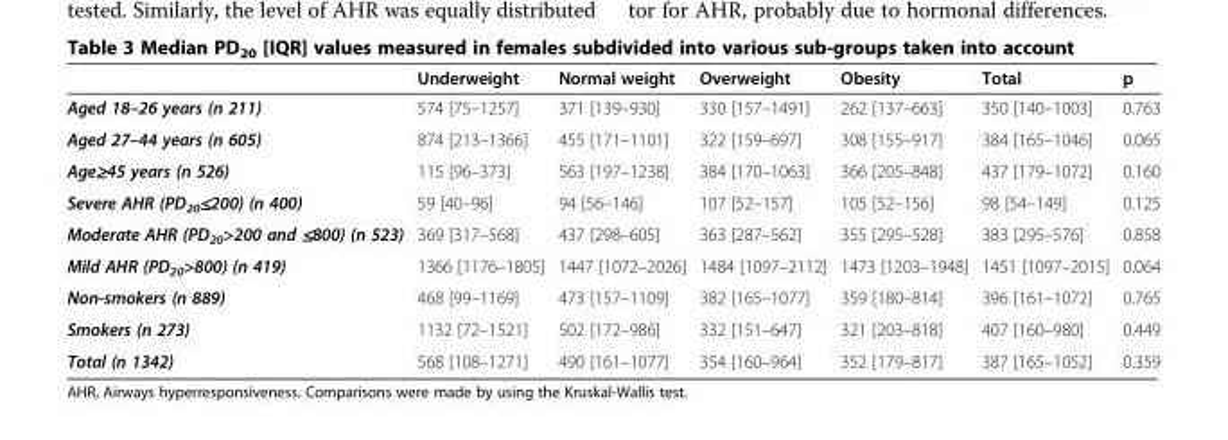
<table><thead><tr><td></td><td>Underweight</td><td>Normal weight</td><td>Overweight</td><td>Obesity</td><td>Total</td><td>p</td></tr></thead><tbody><tr><td>Aged 18–26 years (n 211)</td><td>574 [75–1257]</td><td>371 [139–930]</td><td>330 [157–1491]</td><td>262 [137–663]</td><td>350 [140–1003]</td><td>0.763</td></tr><tr><td>Aged 27–44 years (n 605)</td><td>874 [213–1366]</td><td>455 [171–1101]</td><td>322 [159–697]</td><td>308 [155–917]</td><td>384 [165–1046]</td><td>0.065</td></tr><tr><td>Age≥45 years (n 526)</td><td>115 [96–373]</td><td>563 [197–1238]</td><td>384 [170–1063]</td><td>366 [205–848]</td><td>437 [179–1072]</td><td>0.160</td></tr><tr><td>Severe AHR (PD<sub>20</sub>≤200) (n 400)</td><td>59 [40–96]</td><td>94 [56–146]</td><td>107 [52–157]</td><td>105 [52–156]</td><td>98 [54–149]</td><td>0.125</td></tr><tr><td>Moderate AHR (PD<sub>20</sub>&gt;200 and ≤800) (n 523)</td><td>369 [317–568]</td><td>437 [298–605]</td><td>363 [287–562]</td><td>355 [295–528]</td><td>383 [295–576]</td><td>0.858</td></tr><tr><td>Mild AHR (PD<sub>20</sub>&gt;800) (n 419)</td><td>1366 [1176–1805]</td><td>1447 [1072–2026]</td><td>1484 [1097–2112]</td><td>1473 [1203–1948]</td><td>1451 [1097–2015]</td><td>0.064</td></tr><tr><td>Non-smokers (n 889)</td><td>468 [99–1169]</td><td>473 [157–1109]</td><td>382 [165–1077]</td><td>359 [180–814]</td><td>396 [161–1072]</td><td>0.765</td></tr><tr><td>Smokers (n 273)</td><td>1132 [72–1521]</td><td>502 [172–986]</td><td>332 [151–647]</td><td>321 [203–818]</td><td>407 [160–980]</td><td>0.449</td></tr><tr><td>Total (n 1342)</td><td>568 [108–1271]</td><td>490 [161–1077]</td><td>354 [160–964]</td><td>352 [179–817]</td><td>387 [165–1052]</td><td>0.359</td></tr></tbody></table>